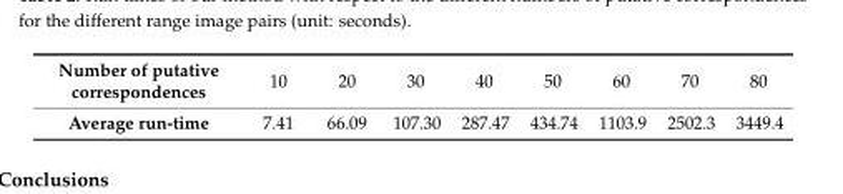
<table><tbody><tr><td>Number of putative correspondences</td><td>10</td><td>20</td><td>30</td><td>40</td><td>50</td><td>60</td><td>70</td><td>80</td></tr><tr><td>Average run-time</td><td>7.41</td><td>66.09</td><td>107.30</td><td>287.47</td><td>434.74</td><td>1103.9</td><td>2502.3</td><td>3449.4</td></tr></tbody></table>